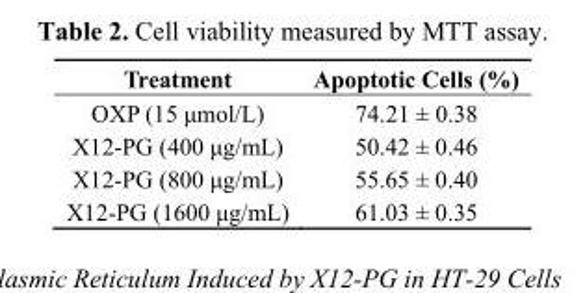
<table><thead><tr><td>Treatment</td><td>Apoptotic Cells (%)</td></tr></thead><tbody><tr><td>OXP (15 μmol/L)</td><td>74.21 ± 0.38</td></tr><tr><td>X12-PG (400 μg/mL)</td><td>50.42 ± 0.46</td></tr><tr><td>X12-PG (800 μg/mL)</td><td>55.65 ± 0.40</td></tr><tr><td>X12-PG (1600 μg/mL)</td><td>61.03 ± 0.35</td></tr></tbody></table>